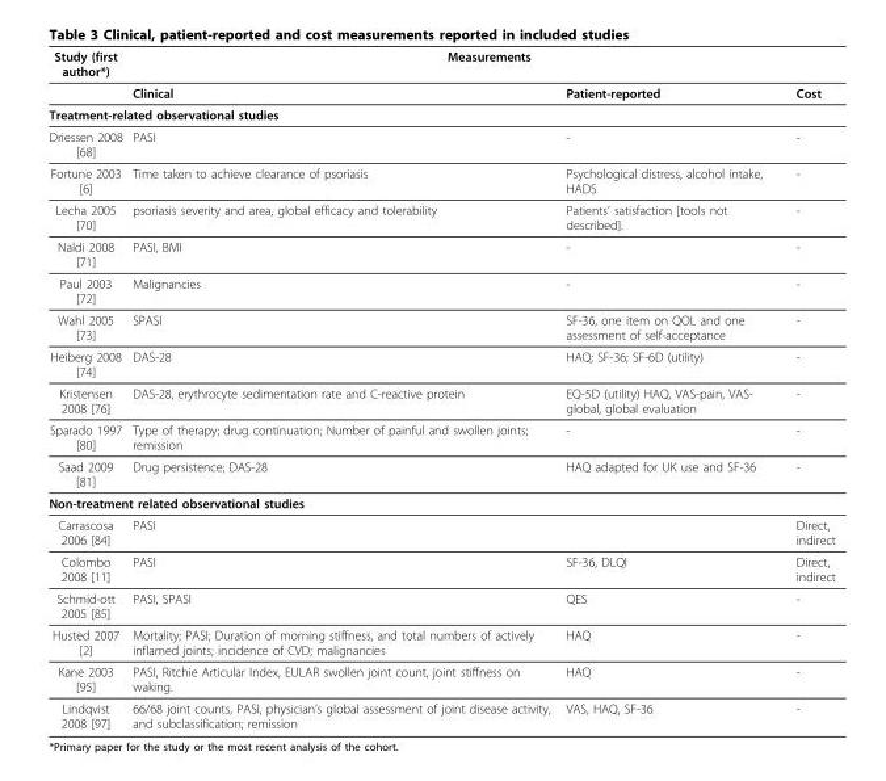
<table><thead><tr><td rowspan="2">Study (first author*)</td><td colspan="3">Measurements</td></tr><tr><td>Clinical</td><td>Patient-reported</td><td>Cost</td></tr></thead><tbody><tr><td colspan="4">Treatment-related observational studies</td></tr><tr><td>Driessen 2008 [68]</td><td>PASI</td><td>-</td><td>-</td></tr><tr><td>Fortune 2003 [6]</td><td>Time taken to achieve clearance of psoriasis</td><td>Psychological distress, alcohol intake, HADS</td><td>-</td></tr><tr><td>Lecha 2005 [70]</td><td>psoriasis severity and area, global efficacy and tolerability</td><td>Patients’ satisfaction [tools not described].</td><td>-</td></tr><tr><td>Naldi 2008 [71]</td><td>PASI, BMI</td><td>-</td><td>-</td></tr><tr><td>Paul 2003 [72]</td><td>Malignancies</td><td>-</td><td>-</td></tr><tr><td>Wahl 2005 [73]</td><td>SPASI</td><td>SF-36, one item on QOL and one assessment of self-acceptance</td><td>-</td></tr><tr><td>Heiberg 2008 [74]</td><td>DAS-28</td><td>HAQ; SF-36; SF-6D (utility)</td><td>-</td></tr><tr><td>Kristensen 2008 [76]</td><td>DAS-28, erythrocyte sedimentation rate and C-reactive protein</td><td>EQ-5D (utility) HAQ, VAS-pain, VAS- global, global evaluation</td><td>-</td></tr><tr><td>Sparado 1997 [80]</td><td>Type of therapy; drug continuation; Number of painful and swollen joints; remission</td><td>-</td><td>-</td></tr><tr><td>Saad 2009 [81]</td><td>Drug persistence; DAS-28</td><td>HAQ adapted for UK use and SF-36</td><td>-</td></tr><tr><td colspan="4">Non-treatment related observational studies</td></tr><tr><td>Carrascosa 2006 [84]</td><td>PASI</td><td></td><td>Direct, indirect</td></tr><tr><td>Colombo 2008 [11]</td><td>PASI</td><td>SF-36, DLQI</td><td>Direct, indirect</td></tr><tr><td>Schmid-ott 2005 [85]</td><td>PASI, SPASI</td><td>QES</td><td>-</td></tr><tr><td>Husted 2007 [2]</td><td>Mortality; PASI; Duration of morning stiffness, and total numbers of actively inflamed joints; incidence of CVD; malignancies</td><td>HAQ</td><td>-</td></tr><tr><td>Kane 2003 [95]</td><td>PASI, Ritchie Articular Index, EULAR swollen joint count, joint stiffness on waking.</td><td>HAQ</td><td>-</td></tr><tr><td>Lindqvist 2008 [97]</td><td>66/68 joint counts, PASI, physician’s global assessment of joint disease activity, and subclassification; remission</td><td>VAS, HAQ, SF-36</td><td>-</td></tr></tbody></table>